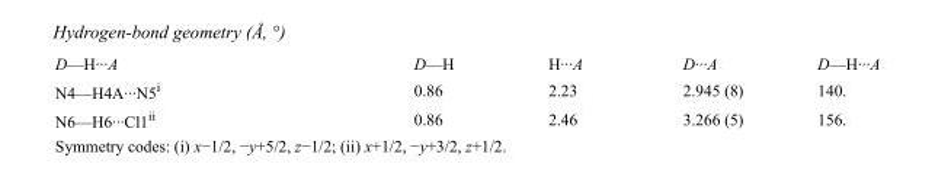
<table><tbody><tr><td>D—H···A</td><td>D—H</td><td>H···A</td><td>D···A</td><td>D—H···A</td></tr><tr><td>N4—H4A···N5<sup>i</sup></td><td>0.86</td><td>2.23</td><td>2.945 (8)</td><td>140.</td></tr><tr><td>N6—H6···Cl1<sup>ii</sup></td><td>0.86</td><td>2.46</td><td>3.266 (5)</td><td>156.</td></tr></tbody></table>